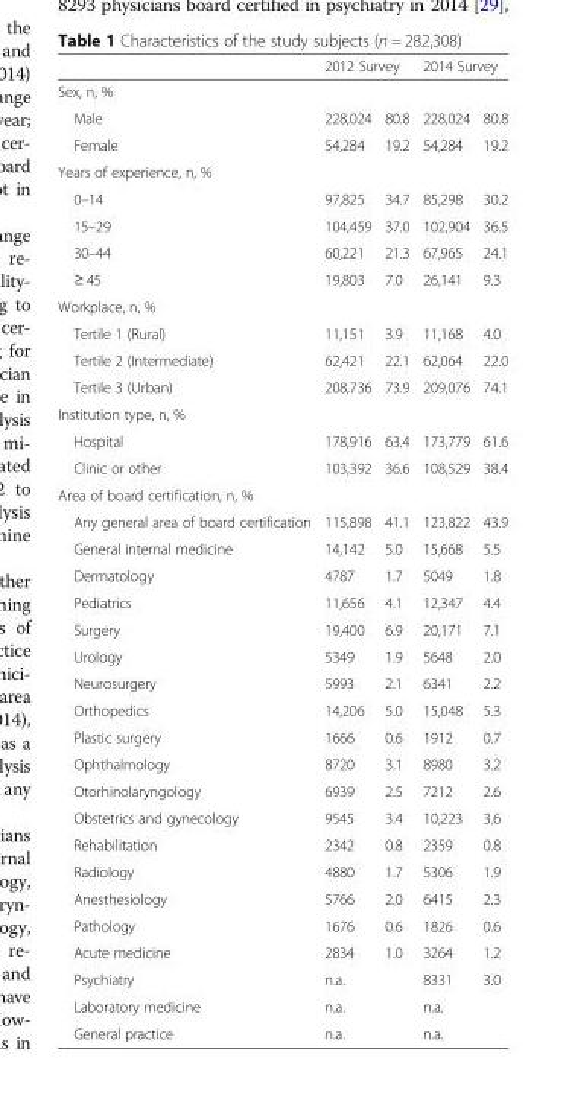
<table><thead><tr><td></td><td colspan="2">2012 Survey</td><td colspan="2">2014 Survey</td></tr><tr><td colspan="5">Sex, n, %</td></tr><tr><td>Male</td><td>228,024</td><td>80.8</td><td>228,024</td><td>80.8</td></tr></thead><tbody><tr><td>Female</td><td>54,284</td><td>19.2</td><td>54,284</td><td>19.2</td></tr><tr><td colspan="5">Years of experience, n, %</td></tr><tr><td>0–14</td><td>97,825</td><td>34.7</td><td>85,298</td><td>30.2</td></tr><tr><td>15–29</td><td>104,459</td><td>37.0</td><td>102,904</td><td>36.5</td></tr><tr><td>30–44</td><td>60,221</td><td>21.3</td><td>67,965</td><td>24.1</td></tr><tr><td>≥ 45</td><td>19,803</td><td>7.0</td><td>26,141</td><td>9.3</td></tr><tr><td colspan="5">Workplace, n, %</td></tr><tr><td>Tertile 1 (Rural)</td><td>11,151</td><td>3.9</td><td>11,168</td><td>4.0</td></tr><tr><td>Tertile 2 (Intermediate)</td><td>62,421</td><td>22.1</td><td>62,064</td><td>22.0</td></tr><tr><td>Tertile 3 (Urban)</td><td>208,736</td><td>73.9</td><td>209,076</td><td>74.1</td></tr><tr><td colspan="5">Institution type, n, %</td></tr><tr><td>Hospital</td><td>178,916</td><td>63.4</td><td>173,779</td><td>61.6</td></tr><tr><td>Clinic or other</td><td>103,392</td><td>36.6</td><td>108,529</td><td>38.4</td></tr><tr><td colspan="5">Area of board certification, n, %</td></tr><tr><td>Any general area of board certification</td><td>115,898</td><td>41.1</td><td>123,822</td><td>43.9</td></tr><tr><td>General internal medicine</td><td>14,142</td><td>5.0</td><td>15,668</td><td>5.5</td></tr><tr><td>Dermatology</td><td>4787</td><td>1.7</td><td>5049</td><td>1.8</td></tr><tr><td>Pediatrics</td><td>11,656</td><td>4.1</td><td>12,347</td><td>4.4</td></tr><tr><td>Surgery</td><td>19,400</td><td>6.9</td><td>20,171</td><td>7.1</td></tr><tr><td>Urology</td><td>5349</td><td>1.9</td><td>5648</td><td>2.0</td></tr><tr><td>Neurosurgery</td><td>5993</td><td>2.1</td><td>6341</td><td>2.2</td></tr><tr><td>Orthopedics</td><td>14,206</td><td>5.0</td><td>15,048</td><td>5.3</td></tr><tr><td>Plastic surgery</td><td>1666</td><td>0.6</td><td>1912</td><td>0.7</td></tr><tr><td>Ophthalmology</td><td>8720</td><td>3.1</td><td>8980</td><td>3.2</td></tr><tr><td>Otorhinolaryngology</td><td>6939</td><td>2.5</td><td>7212</td><td>2.6</td></tr><tr><td>Obstetrics and gynecology</td><td>9545</td><td>3.4</td><td>10,223</td><td>3.6</td></tr><tr><td>Rehabilitation</td><td>2342</td><td>0.8</td><td>2359</td><td>0.8</td></tr><tr><td>Radiology</td><td>4880</td><td>1.7</td><td>5306</td><td>1.9</td></tr><tr><td>Anesthesiology</td><td>5766</td><td>2.0</td><td>6415</td><td>2.3</td></tr><tr><td>Pathology</td><td>1676</td><td>0.6</td><td>1826</td><td>0.6</td></tr><tr><td>Acute medicine</td><td>2834</td><td>1.0</td><td>3264</td><td>1.2</td></tr><tr><td>Psychiatry</td><td>n.a.</td><td></td><td>8331</td><td>3.0</td></tr><tr><td>Laboratory medicine</td><td>n.a.</td><td></td><td>n.a.</td><td></td></tr><tr><td>General practice</td><td>n.a.</td><td></td><td>n.a.</td><td></td></tr></tbody></table>